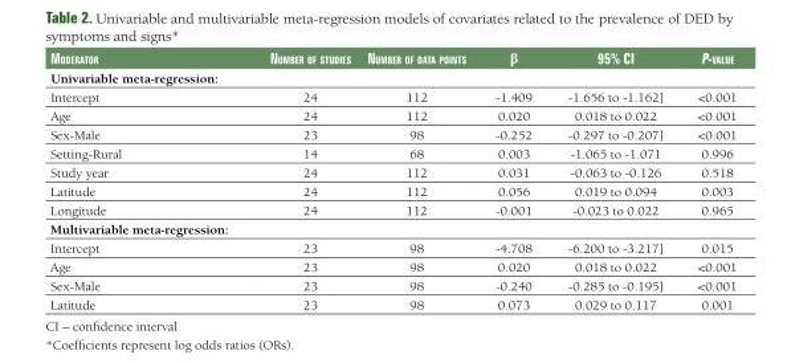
<table><thead><tr><td>moderator</td><td>number of studies</td><td>number of data points</td><td>β</td><td>95% Ci</td><td>p-value</td></tr></thead><tbody><tr><td colspan="6">Univariable meta-regression:</td></tr><tr><td>Intercept</td><td>24</td><td>112</td><td>-1.409</td><td>-1.656 to -1.162]</td><td>&lt;0.001</td></tr><tr><td>Age</td><td>24</td><td>112</td><td>0.020</td><td>0.018 to 0.022</td><td>&lt;0.001</td></tr><tr><td>Sex-Male</td><td>23</td><td>98</td><td>-0.252</td><td>-0.297 to -0.207]</td><td>&lt;0.001</td></tr><tr><td>Setting-Rural</td><td>14</td><td>68</td><td>0.003</td><td>-1.065 to -1.071</td><td>0.996</td></tr><tr><td>Study year</td><td>24</td><td>112</td><td>0.031</td><td>-0.063 to -0.126</td><td>0.518</td></tr><tr><td>Latitude</td><td>24</td><td>112</td><td>0.056</td><td>0.019 to 0.094</td><td>0.003</td></tr><tr><td>Longitude</td><td>24</td><td>112</td><td>-0.001</td><td>-0.023 to 0.022</td><td>0.965</td></tr><tr><td colspan="6">Multivariable meta-regression:</td></tr><tr><td>Intercept</td><td>23</td><td>98</td><td>-4.708</td><td>-6.200 to -3.217]</td><td>0.015</td></tr><tr><td>Age</td><td>23</td><td>98</td><td>0.020</td><td>0.018 to 0.022</td><td>&lt;0.001</td></tr><tr><td>Sex-Male</td><td>23</td><td>98</td><td>-0.240</td><td>-0.285 to -0.195]</td><td>&lt;0.001</td></tr><tr><td>Latitude</td><td>23</td><td>98</td><td>0.073</td><td>0.029 to 0.117</td><td>0.001</td></tr></tbody></table>